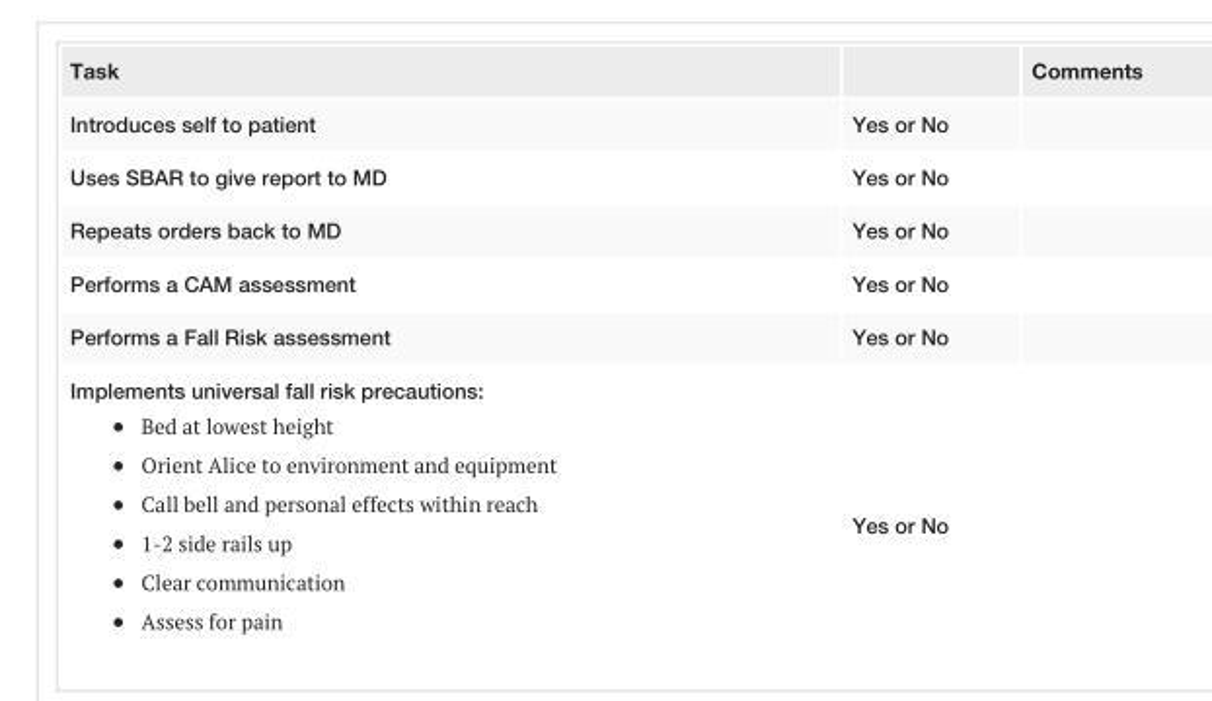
<table><tbody><tr><td>Task</td><td></td><td>Comments</td></tr><tr><td>Introduces self to patient</td><td>Yes or No</td><td></td></tr><tr><td>Uses SBAR to give report to MD</td><td>Yes or No</td><td></td></tr><tr><td>Repeats orders back to MD</td><td>Yes or No</td><td></td></tr><tr><td>Performs a CAM assessment</td><td>Yes or No</td><td></td></tr><tr><td>Performs a Fall Risk assessment</td><td>Yes or No</td><td></td></tr><tr><td>Implements universal fall risk precautions: Bed at lowest height Orient Alice to environment and equipment Call bell and personal effects within reach 1-2 side rails up Clear communication Assess for pain</td><td>Yes or No</td><td></td></tr></tbody></table>